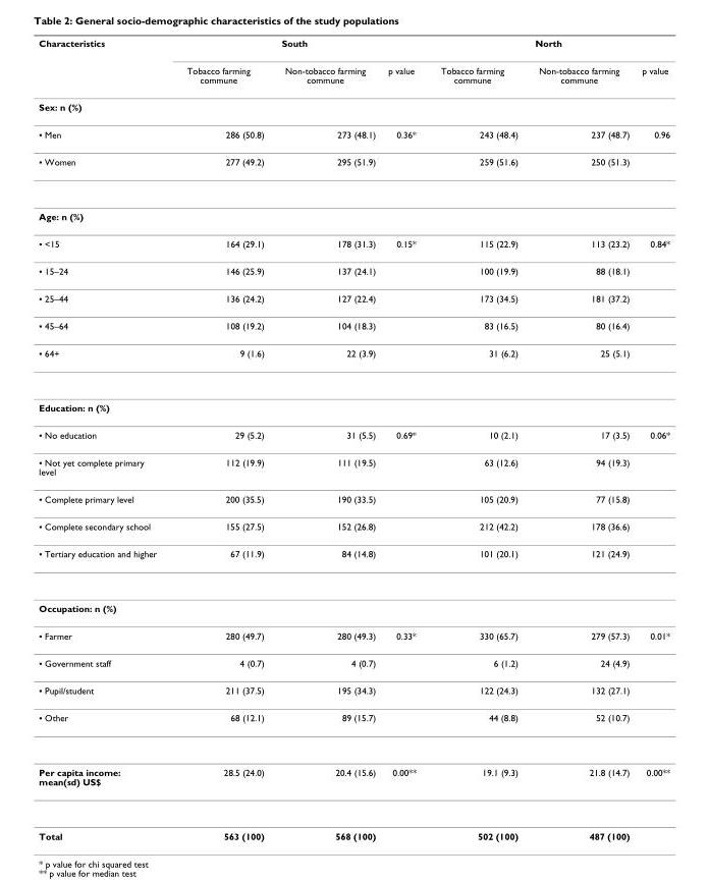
<table><thead><tr><td rowspan="2">Characteristics</td><td colspan="3">South</td><td colspan="3">North</td></tr><tr><td>Tobacco farming commune</td><td>Non-tobacco farming commune</td><td>p value</td><td>Tobacco farming commune</td><td>Non-tobacco farming commune</td><td>p value</td></tr></thead><tbody><tr><td colspan="7">Sex: n (%)</td></tr><tr><td>▪ Men</td><td>286 (50.8)</td><td>273 (48.1)</td><td>0.36*</td><td>243 (48.4)</td><td>237 (48.7)</td><td>0.96</td></tr><tr><td>▪ Women</td><td>277 (49.2)</td><td>295 (51.9)</td><td></td><td>259 (51.6)</td><td>250 (51.3)</td><td></td></tr><tr><td colspan="7">Age: n (%)</td></tr><tr><td>▪ &lt;15</td><td>164 (29.1)</td><td>178 (31.3)</td><td>0.15*</td><td>115 (22.9)</td><td>113 (23.2)</td><td>0.84*</td></tr><tr><td>▪ 15–24</td><td>146 (25.9)</td><td>137 (24.1)</td><td></td><td>100 (19.9)</td><td>88 (18.1)</td><td></td></tr><tr><td>▪ 25–44</td><td>136 (24.2)</td><td>127 (22.4)</td><td></td><td>173 (34.5)</td><td>181 (37.2)</td><td></td></tr><tr><td>▪ 45–64</td><td>108 (19.2)</td><td>104 (18.3)</td><td></td><td>83 (16.5)</td><td>80 (16.4)</td><td></td></tr><tr><td>▪ 64+</td><td>9 (1.6)</td><td>22 (3.9)</td><td></td><td>31 (6.2)</td><td>25 (5.1)</td><td></td></tr><tr><td colspan="7">Education: n (%)</td></tr><tr><td>▪ No education</td><td>29 (5.2)</td><td>31 (5.5)</td><td>0.69*</td><td>10 (2.1)</td><td>17 (3.5)</td><td>0.06*</td></tr><tr><td>▪ Not yet complete primary level</td><td>112 (19.9)</td><td>111 (19.5)</td><td></td><td>63 (12.6)</td><td>94 (19.3)</td><td></td></tr><tr><td>▪ Complete primary level</td><td>200 (35.5)</td><td>190 (33.5)</td><td></td><td>105 (20.9)</td><td>77 (15.8)</td><td></td></tr><tr><td>▪ Complete secondary school</td><td>155 (27.5)</td><td>152 (26.8)</td><td></td><td>212 (42.2)</td><td>178 (36.6)</td><td></td></tr><tr><td>▪ Tertiary education and higher</td><td>67 (11.9)</td><td>84 (14.8)</td><td></td><td>101 (20.1)</td><td>121 (24.9)</td><td></td></tr><tr><td colspan="7">Occupation: n (%)</td></tr><tr><td>▪ Farmer</td><td>280 (49.7)</td><td>280 (49.3)</td><td>0.33*</td><td>330 (65.7)</td><td>279 (57.3)</td><td>0.01*</td></tr><tr><td>▪ Government staff</td><td>4 (0.7)</td><td>4 (0.7)</td><td></td><td>6 (1.2)</td><td>24 (4.9)</td><td></td></tr><tr><td>▪ Pupil/student</td><td>211 (37.5)</td><td>195 (34.3)</td><td></td><td>122 (24.3)</td><td>132 (27.1)</td><td></td></tr><tr><td>▪ Other</td><td>68 (12.1)</td><td>89 (15.7)</td><td></td><td>44 (8.8)</td><td>52 (10.7)</td><td></td></tr><tr><td>Per capita income: mean(sd) US$</td><td>28.5 (24.0)</td><td>20.4 (15.6)</td><td>0.00**</td><td>19.1 (9.3)</td><td>21.8 (14.7)</td><td>0.00**</td></tr><tr><td>Total</td><td>563 (100)</td><td>568 (100)</td><td></td><td>502 (100)</td><td>487 (100)</td><td></td></tr></tbody></table>